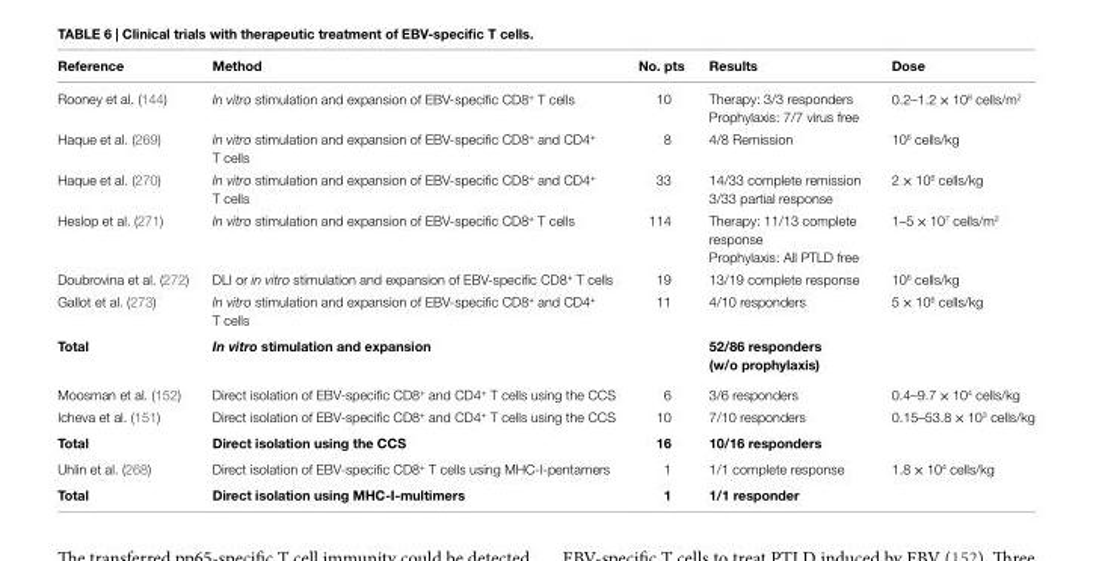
<table><thead><tr><td>Reference</td><td>Method</td><td>No. pts</td><td>Results</td><td>Dose</td></tr></thead><tbody><tr><td>Rooney et al. (144)</td><td>In vitro stimulation and expansion of EBV-specific CD8<sup>+</sup> T cells</td><td>10</td><td>Therapy: 3/3 responders Prophylaxis: 7/7 virus free</td><td>0.2–1.2 × 10<sup>8</sup> cells/m<sup>2</sup></td></tr><tr><td>Haque et al. (269)</td><td>In vitro stimulation and expansion of EBV-specific CD8<sup>+</sup> and CD4<sup>+</sup> T cells</td><td>8</td><td>4/8 Remission</td><td>10<sup>6</sup> cells/kg</td></tr><tr><td>Haque et al. (270)</td><td>In vitro stimulation and expansion of EBV-specific CD8<sup>+</sup> and CD4<sup>+</sup> T cells</td><td>33</td><td>14/33 complete remission 3/33 partial response</td><td>2 × 10<sup>6</sup> cells/kg</td></tr><tr><td>Heslop et al. (271)</td><td>In vitro stimulation and expansion of EBV-specific CD8<sup>+</sup> T cells</td><td>114</td><td>Therapy: 11/13 complete response Prophylaxis: All PTLD free</td><td>1–5 × 10<sup>7</sup> cells/m<sup>2</sup></td></tr><tr><td>Doubrovina et al. (272)</td><td>DLI or in vitro stimulation and expansion of EBV-specific CD8<sup>+</sup> T cells</td><td>19</td><td>13/19 complete response</td><td>10<sup>6</sup> cells/kg</td></tr><tr><td>Gallot et al. (273)</td><td>In vitro stimulation and expansion of EBV-specific CD8<sup>+</sup> and CD4<sup>+</sup> T cells</td><td>11</td><td>4/10 responders</td><td>5 × 10<sup>6</sup> cells/kg</td></tr><tr><td>Total</td><td>In vitro stimulation and expansion</td><td></td><td>52/86 responders (w/o prophylaxis)</td><td></td></tr><tr><td>Moosman et al. (152)</td><td>Direct isolation of EBV-specific CD8<sup>+</sup> and CD4<sup>+</sup> T cells using the CCS</td><td>6</td><td>3/6 responders</td><td>0.4–9.7 × 10<sup>4</sup> cells/kg</td></tr><tr><td>Icheva et al. (151)</td><td>Direct isolation of EBV-specific CD8<sup>+</sup> and CD4<sup>+</sup> T cells using the CCS</td><td>10</td><td>7/10 responders</td><td>0.15–53.8 × 10<sup>3</sup> cells/kg</td></tr><tr><td>Total</td><td>Direct isolation using the CCS</td><td>16</td><td>10/16 responders</td><td></td></tr><tr><td>Uhlin et al. (268)</td><td>Direct isolation of EBV-specific CD8<sup>+</sup> T cells using MHC-I-pentamers</td><td>1</td><td>1/1 complete response</td><td>1.8 × 10<sup>4</sup> cells/kg</td></tr><tr><td>Total</td><td>Direct isolation using MHC-i-multimers</td><td>1</td><td>1/1 responder</td><td></td></tr></tbody></table>